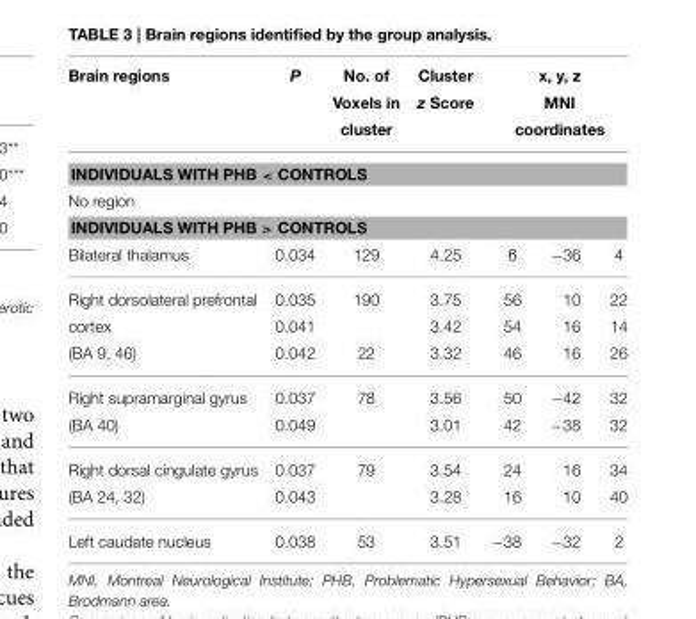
<table><thead><tr><td>Brain regions</td><td>P</td><td>No. of Voxels in cluster</td><td>Cluster z Score</td><td colspan="3">x, y, z MNI coordinates</td></tr></thead><tbody><tr><td colspan="7">INDIVIDUALS WITH PHB &lt; CONTROLS</td></tr><tr><td colspan="7">No region</td></tr><tr><td colspan="7">INDIVIDUALS WITH PHB &gt; CONTROLS</td></tr><tr><td>Bilateral thalamus</td><td>0.034</td><td>129</td><td>4.25</td><td>6</td><td>−36</td><td>4</td></tr><tr><td>Right dorsolateral prefrontal</td><td>0.035</td><td>190</td><td>3.75</td><td>56</td><td>10</td><td>22</td></tr><tr><td>cortex</td><td>0.041</td><td></td><td>3.42</td><td>54</td><td>16</td><td>14</td></tr><tr><td>(BA 9, 46)</td><td>0.042</td><td>22</td><td>3.32</td><td>46</td><td>16</td><td>26</td></tr><tr><td>Right supramarginal gyrus</td><td>0.037</td><td>78</td><td>3.56</td><td>50</td><td>−42</td><td>32</td></tr><tr><td>(BA 40)</td><td>0.049</td><td></td><td>3.01</td><td>42</td><td>−38</td><td>32</td></tr><tr><td>Right dorsal cingulate gyrus</td><td>0.037</td><td>79</td><td>3.54</td><td>24</td><td>16</td><td>34</td></tr><tr><td>(BA 24, 32)</td><td>0.043</td><td></td><td>3.28</td><td>16</td><td>10</td><td>40</td></tr><tr><td>Left caudate nucleus</td><td>0.038</td><td>53</td><td>3.51</td><td>−38</td><td>−32</td><td>2</td></tr></tbody></table>